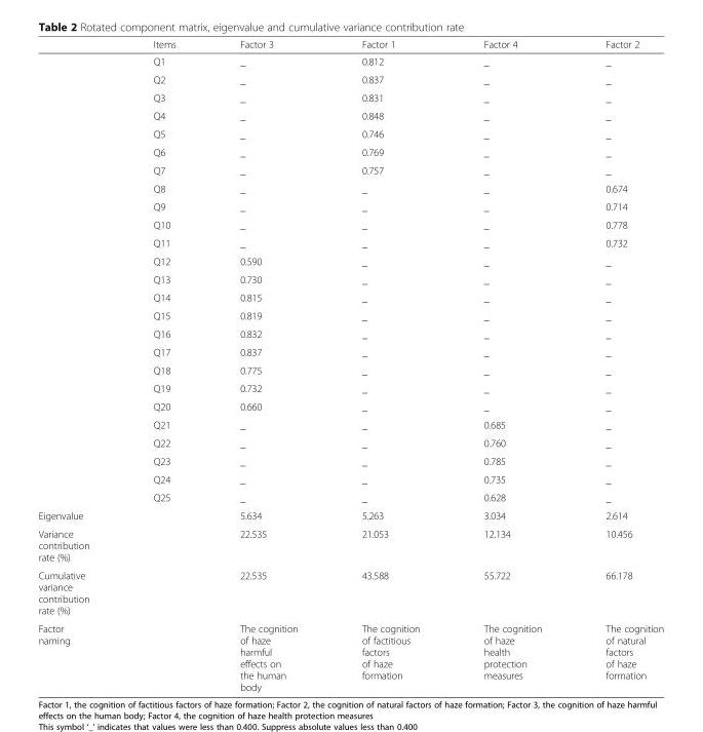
<table><thead><tr><td></td><td>Items</td><td>Factor 3</td><td>Factor 1</td><td>Factor 4</td><td>Factor 2</td></tr></thead><tbody><tr><td></td><td>Q1</td><td>_</td><td>0.812</td><td>_</td><td>_</td></tr><tr><td></td><td>Q2</td><td>_</td><td>0.837</td><td>_</td><td>_</td></tr><tr><td></td><td>Q3</td><td>_</td><td>0.831</td><td>_</td><td>_</td></tr><tr><td></td><td>Q4</td><td>_</td><td>0.848</td><td>_</td><td>_</td></tr><tr><td></td><td>Q5</td><td>_</td><td>0.746</td><td>_</td><td>_</td></tr><tr><td></td><td>Q6</td><td>_</td><td>0.769</td><td>_</td><td>_</td></tr><tr><td></td><td>Q7</td><td>_</td><td>0.757</td><td>_</td><td>_</td></tr><tr><td></td><td>Q8</td><td>_</td><td>_</td><td>_</td><td>0.674</td></tr><tr><td></td><td>Q9</td><td>_</td><td>_</td><td>_</td><td>0.714</td></tr><tr><td></td><td>Q10</td><td>_</td><td>_</td><td>_</td><td>0.778</td></tr><tr><td></td><td>Q11</td><td>_</td><td>_</td><td>_</td><td>0.732</td></tr><tr><td></td><td>Q12</td><td>0.590</td><td>_</td><td>_</td><td>_</td></tr><tr><td></td><td>Q13</td><td>0.730</td><td>_</td><td>_</td><td>_</td></tr><tr><td></td><td>Q14</td><td>0.815</td><td>_</td><td>_</td><td>_</td></tr><tr><td></td><td>Q15</td><td>0.819</td><td>_</td><td>_</td><td>_</td></tr><tr><td></td><td>Q16</td><td>0.832</td><td>_</td><td>_</td><td>_</td></tr><tr><td></td><td>Q17</td><td>0.837</td><td>_</td><td>_</td><td>_</td></tr><tr><td></td><td>Q18</td><td>0.775</td><td>_</td><td>_</td><td>_</td></tr><tr><td></td><td>Q19</td><td>0.732</td><td>_</td><td>_</td><td>_</td></tr><tr><td></td><td>Q20</td><td>0.660</td><td>_</td><td>_</td><td>_</td></tr><tr><td></td><td>Q21</td><td>_</td><td>_</td><td>0.685</td><td>_</td></tr><tr><td></td><td>Q22</td><td>_</td><td>_</td><td>0.760</td><td>_</td></tr><tr><td></td><td>Q23</td><td>_</td><td>_</td><td>0.785</td><td>_</td></tr><tr><td></td><td>Q24</td><td>_</td><td>_</td><td>0.735</td><td>_</td></tr><tr><td></td><td>Q25</td><td>_</td><td>_</td><td>0.628</td><td>_</td></tr><tr><td>Eigenvalue</td><td></td><td>5.634</td><td>5.263</td><td>3.034</td><td>2.614</td></tr><tr><td>Variance contribution rate (%)</td><td></td><td>22.535</td><td>21.053</td><td>12.134</td><td>10.456</td></tr><tr><td>Cumulative variance contribution rate (%)</td><td></td><td>22.535</td><td>43.588</td><td>55.722</td><td>66.178</td></tr><tr><td>Factor naming</td><td></td><td>The cognition of haze harmful effects on the human body</td><td>The cognition of factitious factors of haze formation</td><td>The cognition of haze health protection measures</td><td>The cognition of natural factors of haze formation</td></tr></tbody></table>